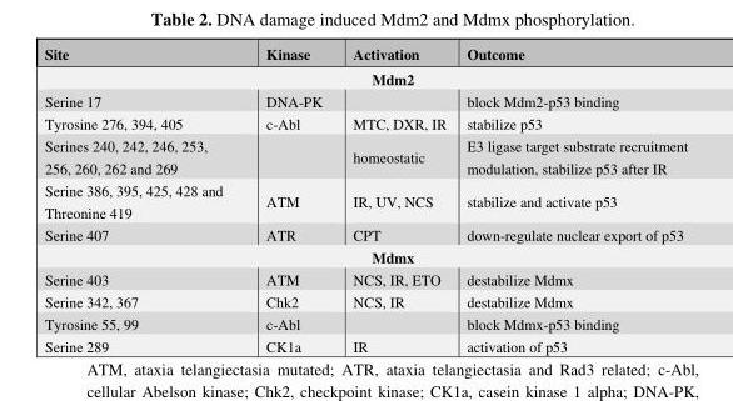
<table><thead><tr><td>Site</td><td>Kinase</td><td>Activation</td><td>Outcome</td></tr></thead><tbody><tr><td colspan="4">Mdm2</td></tr><tr><td>Serine 17</td><td>DNA-PK</td><td></td><td>block Mdm2-p53 binding</td></tr><tr><td>Tyrosine 276, 394, 405</td><td>c-Abl</td><td>MTC, DXR, IR</td><td>stabilize p53</td></tr><tr><td>Serines 240, 242, 246, 253, 256, 260, 262 and 269</td><td></td><td>homeostatic</td><td>E3 ligase target substrate recruitment modulation, stabilize p53 after IR</td></tr><tr><td>Serine 386, 395, 425, 428 and Threonine 419</td><td>ATM</td><td>IR, UV, NCS</td><td>stabilize and activate p53</td></tr><tr><td>Serine 407</td><td>ATR</td><td>CPT</td><td>down-regulate nuclear export of p53</td></tr><tr><td colspan="4">Mdmx</td></tr><tr><td>Serine 403</td><td>ATM</td><td>NCS, IR, ETO</td><td>destabilize Mdmx</td></tr><tr><td>Serine 342, 367</td><td>Chk2</td><td>NCS, IR</td><td>destabilize Mdmx</td></tr><tr><td>Tyrosine 55, 99</td><td>c-Abl</td><td></td><td>block Mdmx-p53 binding</td></tr><tr><td>Serine 289</td><td>CK1a</td><td>IR</td><td>activation of p53</td></tr></tbody></table>